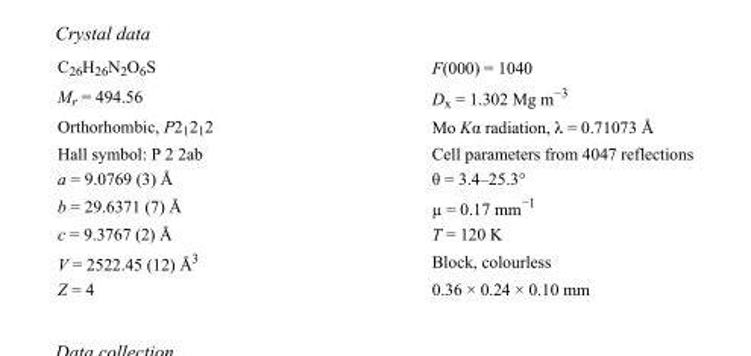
<table><tbody><tr><td>C<sub>26</sub>H<sub>26</sub>N<sub>2</sub>O<sub>6</sub>S</td><td>F(000) = 1040</td></tr><tr><td>M<sub>r</sub> = 494.56</td><td>D<sub>x</sub> = 1.302 Mg m<sup>−3</sup></td></tr><tr><td>Orthorhombic, P2<sub>1</sub>2<sub>1</sub>2</td><td>Mo Kα radiation, λ = 0.71073 Å</td></tr><tr><td>Hall symbol: P 2 2ab</td><td>Cell parameters from 4047 reflections</td></tr><tr><td>a = 9.0769 (3) Å</td><td>θ = 3.4–25.3°</td></tr><tr><td>b = 29.6371 (7) Å</td><td>µ = 0.17 mm<sup>−1</sup></td></tr><tr><td>c = 9.3767 (2) Å</td><td>T = 120 K</td></tr><tr><td>V = 2522.45 (12) Å<sup>3</sup></td><td>Block, colourless</td></tr><tr><td>Z = 4</td><td>0.36 × 0.24 × 0.10 mm</td></tr></tbody></table>